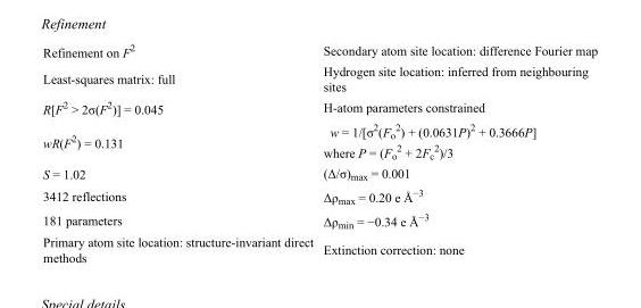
<table><tbody><tr><td>Refinement on F<sup>2</sup></td><td>Secondary atom site location: difference Fourier map</td></tr><tr><td>Least-squares matrix: full</td><td>Hydrogen site location: inferred from neighbouring sites</td></tr><tr><td>R[F<sup>2</sup> &gt; 2σ(F<sup>2</sup>)] = 0.045</td><td>H-atom parameters constrained</td></tr><tr><td>wR(F<sup>2</sup>) = 0.131</td><td>w = 1/[σ<sup>2</sup>(F<sub>o</sub> <sup>2</sup>) + (0.0631P)<sup>2</sup> + 0.3666P] where P = (F<sub>o</sub> <sup>2</sup> + 2F<sub>c</sub> <sup>2</sup>)/3</td></tr><tr><td>S = 1.02</td><td>(Δ/σ)<sub>max</sub> = 0.001</td></tr><tr><td>3412 reflections</td><td>Δρ<sub>max</sub> = 0.20 e Å<sup>−3</sup></td></tr><tr><td>181 parameters</td><td>Δρ<sub>min</sub> = −0.34 e Å<sup>−3</sup></td></tr><tr><td>Primary atom site location: structure-invariant direct methods</td><td>Extinction correction: none</td></tr></tbody></table>